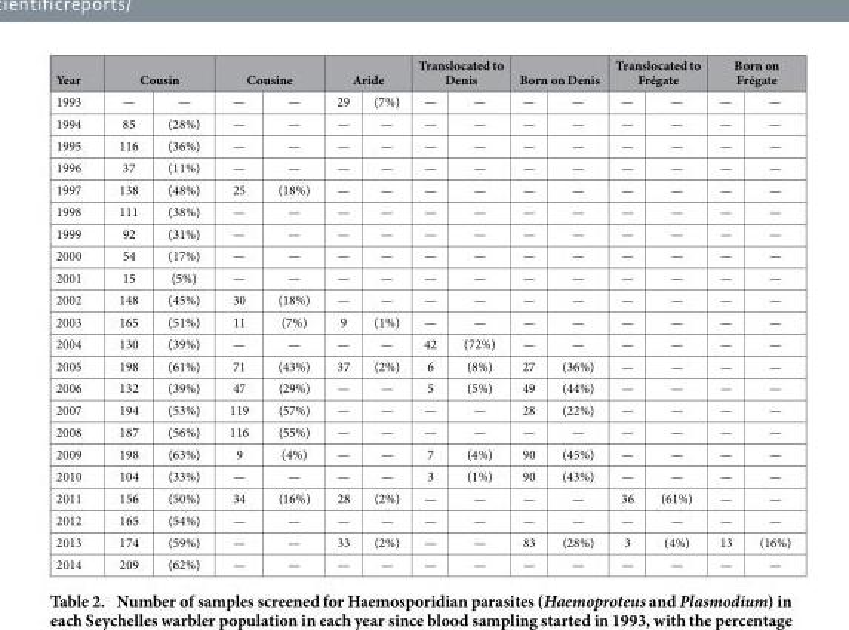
<table><thead><tr><td rowspan="2">Year 1993</td><td colspan="2">Cousin</td><td colspan="2">Cousine</td><td colspan="2">Aride</td><td colspan="2">Translocated to Denis</td><td colspan="2">Born on Denis</td><td colspan="2">Translocated to Frégate</td><td colspan="2">Born on Frégate</td></tr><tr><td>—</td><td>—</td><td>—</td><td>—</td><td>29</td><td>(7%)</td><td>—</td><td>—</td><td>—</td><td>—</td><td>—</td><td>—</td><td>—</td><td>—</td></tr></thead><tbody><tr><td>1994</td><td>85</td><td>(28%)</td><td>—</td><td>—</td><td>—</td><td>—</td><td>—</td><td>—</td><td>—</td><td>—</td><td>—</td><td>—</td><td>—</td><td>—</td></tr><tr><td>1995</td><td>116</td><td>(36%)</td><td>—</td><td>—</td><td>—</td><td>—</td><td>—</td><td>—</td><td>—</td><td>—</td><td>—</td><td>—</td><td>—</td><td>—</td></tr><tr><td>1996</td><td>37</td><td>(11%)</td><td>—</td><td>—</td><td>—</td><td>—</td><td>—</td><td>—</td><td>—</td><td>—</td><td>—</td><td>—</td><td>—</td><td>—</td></tr><tr><td>1997</td><td>138</td><td>(48%)</td><td>25</td><td>(18%)</td><td>—</td><td>—</td><td>—</td><td>—</td><td>—</td><td>—</td><td>—</td><td>—</td><td>—</td><td>—</td></tr><tr><td>1998</td><td>111</td><td>(38%)</td><td>—</td><td>—</td><td>—</td><td>—</td><td>—</td><td>—</td><td>—</td><td>—</td><td>—</td><td>—</td><td>—</td><td>—</td></tr><tr><td>1999</td><td>92</td><td>(31%)</td><td>—</td><td>—</td><td>—</td><td>—</td><td>—</td><td>—</td><td>—</td><td>—</td><td>—</td><td>—</td><td>—</td><td>—</td></tr><tr><td>2000</td><td>54</td><td>(17%)</td><td>—</td><td>—</td><td>—</td><td>—</td><td>—</td><td>—</td><td>—</td><td>—</td><td>—</td><td>—</td><td>—</td><td>—</td></tr><tr><td>2001</td><td>15</td><td>(5%)</td><td>—</td><td>—</td><td>—</td><td>—</td><td>—</td><td>—</td><td>—</td><td>—</td><td>—</td><td>—</td><td>—</td><td>—</td></tr><tr><td>2002</td><td>148</td><td>(45%)</td><td>30</td><td>(18%)</td><td>—</td><td>—</td><td>—</td><td>—</td><td>—</td><td>—</td><td>—</td><td>—</td><td>—</td><td>—</td></tr><tr><td>2003</td><td>165</td><td>(51%)</td><td>11</td><td>(7%)</td><td>9</td><td>(1%)</td><td>—</td><td>—</td><td>—</td><td>—</td><td>—</td><td>—</td><td>—</td><td>—</td></tr><tr><td>2004</td><td>130</td><td>(39%)</td><td>—</td><td>—</td><td>—</td><td>—</td><td>42</td><td>(72%)</td><td>—</td><td>—</td><td>—</td><td>—</td><td>—</td><td>—</td></tr><tr><td>2005</td><td>198</td><td>(61%)</td><td>71</td><td>(43%)</td><td>37</td><td>(2%)</td><td>6</td><td>(8%)</td><td>27</td><td>(36%)</td><td>—</td><td>—</td><td>—</td><td>—</td></tr><tr><td>2006</td><td>132</td><td>(39%)</td><td>47</td><td>(29%)</td><td>—</td><td>—</td><td>5</td><td>(5%)</td><td>49</td><td>(44%)</td><td>—</td><td>—</td><td>—</td><td>—</td></tr><tr><td>2007</td><td>194</td><td>(53%)</td><td>119</td><td>(57%)</td><td>—</td><td>—</td><td>—</td><td>—</td><td>28</td><td>(22%)</td><td>—</td><td>—</td><td>—</td><td>—</td></tr><tr><td>2008</td><td>187</td><td>(56%)</td><td>116</td><td>(55%)</td><td>—</td><td>—</td><td>—</td><td>—</td><td>—</td><td>—</td><td>—</td><td>—</td><td>—</td><td>—</td></tr><tr><td>2009</td><td>198</td><td>(63%)</td><td>9</td><td>(4%)</td><td>—</td><td>—</td><td>7</td><td>(4%)</td><td>90</td><td>(45%)</td><td>—</td><td>—</td><td>—</td><td>—</td></tr><tr><td>2010</td><td>104</td><td>(33%)</td><td>—</td><td>—</td><td>—</td><td>—</td><td>3</td><td>(1%)</td><td>90</td><td>(43%)</td><td>—</td><td>—</td><td>—</td><td>—</td></tr><tr><td>2011</td><td>156</td><td>(50%)</td><td>34</td><td>(16%)</td><td>28</td><td>(2%)</td><td>—</td><td>—</td><td>—</td><td>—</td><td>36</td><td>(61%)</td><td>—</td><td>—</td></tr><tr><td>2012</td><td>165</td><td>(54%)</td><td>—</td><td>—</td><td>—</td><td>—</td><td>—</td><td>—</td><td>—</td><td>—</td><td>—</td><td>—</td><td>—</td><td>—</td></tr><tr><td>2013</td><td>174</td><td>(59%)</td><td>—</td><td>—</td><td>33</td><td>(2%)</td><td>—</td><td>—</td><td>83</td><td>(28%)</td><td>3</td><td>(4%)</td><td>13</td><td>(16%)</td></tr><tr><td>2014</td><td>209</td><td>(62%)</td><td>—</td><td>—</td><td>—</td><td>—</td><td>—</td><td>—</td><td>—</td><td>—</td><td>—</td><td>—</td><td>—</td><td>—</td></tr></tbody></table>